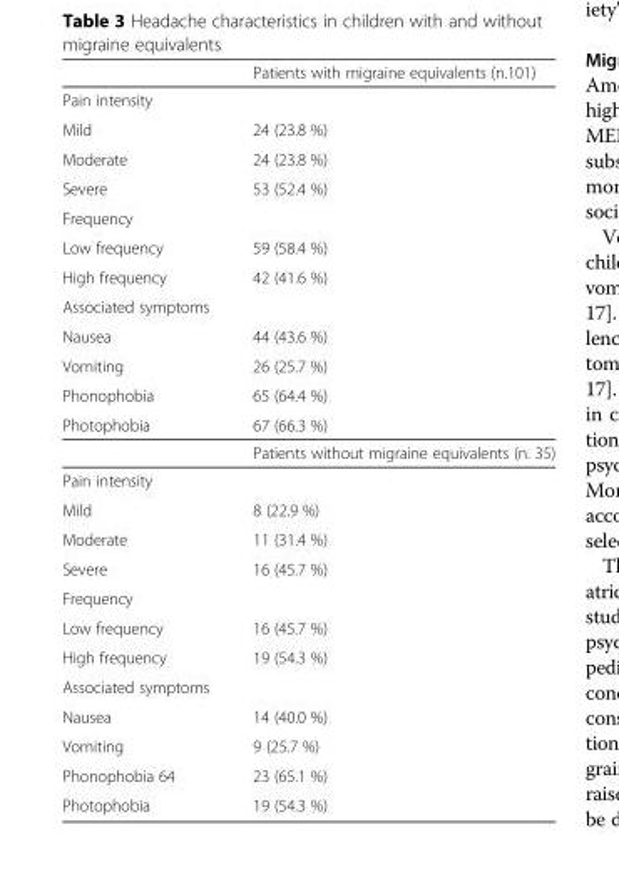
<table><thead><tr><td></td><td>Patients with migraine equivalents (n.101)</td></tr></thead><tbody><tr><td colspan="2">Pain intensity</td></tr><tr><td>Mild</td><td>24 (23.8 %)</td></tr><tr><td>Moderate</td><td>24 (23.8 %)</td></tr><tr><td>Severe</td><td>53 (52.4 %)</td></tr><tr><td colspan="2">Frequency</td></tr><tr><td>Low frequency</td><td>59 (58.4 %)</td></tr><tr><td>High frequency</td><td>42 (41.6 %)</td></tr><tr><td colspan="2">Associated symptoms</td></tr><tr><td>Nausea</td><td>44 (43.6 %)</td></tr><tr><td>Vomiting</td><td>26 (25.7 %)</td></tr><tr><td>Phonophobia</td><td>65 (64.4 %)</td></tr><tr><td rowspan="2">Photophobia</td><td>67 (66.3 %)</td></tr><tr><td>Patients without migraine equivalents (n. 35)</td></tr><tr><td colspan="2">Pain intensity</td></tr><tr><td>Mild</td><td>8 (22.9 %)</td></tr><tr><td>Moderate</td><td>11 (31.4 %)</td></tr><tr><td>Severe</td><td>16 (45.7 %)</td></tr><tr><td colspan="2">Frequency</td></tr><tr><td>Low frequency</td><td>16 (45.7 %)</td></tr><tr><td>High frequency</td><td>19 (54.3 %)</td></tr><tr><td colspan="2">Associated symptoms</td></tr><tr><td>Nausea</td><td>14 (40.0 %)</td></tr><tr><td>Vomiting</td><td>9 (25.7 %)</td></tr><tr><td>Phonophobia 64</td><td>23 (65.1 %)</td></tr><tr><td>Photophobia</td><td>19 (54.3 %)</td></tr></tbody></table>